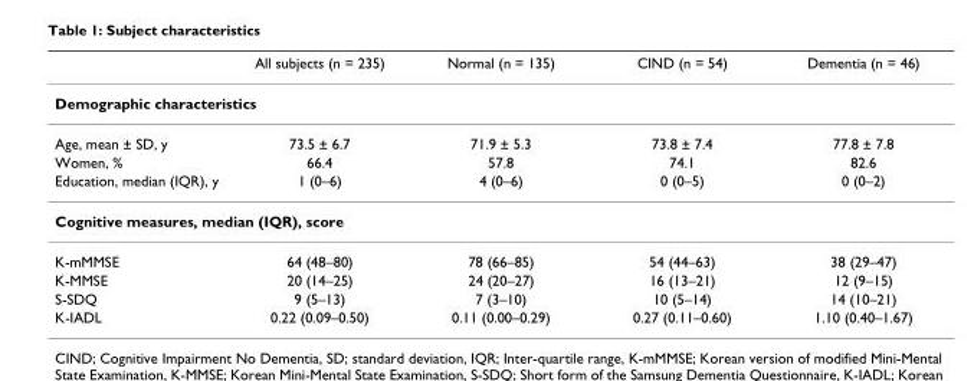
<table><thead><tr><td></td><td>All subjects (n = 235)</td><td>Normal (n = 135)</td><td>CIND (n = 54)</td><td>Dementia (n = 46)</td></tr></thead><tbody><tr><td colspan="5">Demographic characteristics</td></tr><tr><td>Age, mean ± SD, y</td><td>73.5 ± 6.7</td><td>71.9 ± 5.3</td><td>73.8 ± 7.4</td><td>77.8 ± 7.8</td></tr><tr><td>Women, %</td><td>66.4</td><td>57.8</td><td>74.1</td><td>82.6</td></tr><tr><td>Education, median (IQR), y</td><td>1 (0–6)</td><td>4 (0–6)</td><td>0 (0–5)</td><td>0 (0–2)</td></tr><tr><td colspan="5">Cognitive measures, median (IQR), score</td></tr><tr><td>K-mMMSE</td><td>64 (48–80)</td><td>78 (66–85)</td><td>54 (44–63)</td><td>38 (29–47)</td></tr><tr><td>K-MMSE</td><td>20 (14–25)</td><td>24 (20–27)</td><td>16 (13–21)</td><td>12 (9–15)</td></tr><tr><td>S-SDQ</td><td>9 (5–13)</td><td>7 (3–10)</td><td>10 (5–14)</td><td>14 (10–21)</td></tr><tr><td>K-IADL</td><td>0.22 (0.09–0.50)</td><td>0.11 (0.00–0.29)</td><td>0.27 (0.11–0.60)</td><td>1.10 (0.40–1.67)</td></tr></tbody></table>